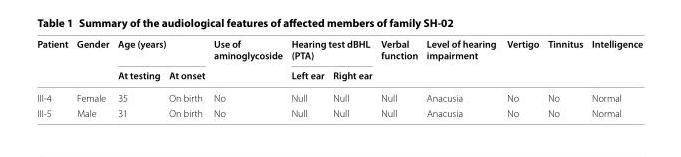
<table><thead><tr><td rowspan="2">Patient</td><td rowspan="2">Gender</td><td colspan="2">Age (years)</td><td rowspan="2">Use of aminoglycoside</td><td colspan="2">Hearing test dBHL (PTA)</td><td rowspan="2">Verbal function</td><td rowspan="2">Level of hearing impairment</td><td rowspan="2">Vertigo</td><td rowspan="2">Tinnitus</td><td rowspan="2">Intelligence</td></tr><tr><td>At testing</td><td>At onset</td><td>Left ear</td><td>Right ear</td></tr></thead><tbody><tr><td>III-4</td><td>Female</td><td>35</td><td>On birth</td><td>No</td><td>Null</td><td>Null</td><td>Null</td><td>Anacusia</td><td>No</td><td>No</td><td>Normal</td></tr><tr><td>III-5</td><td>Male</td><td>31</td><td>On birth</td><td>No</td><td>Null</td><td>Null</td><td>Null</td><td>Anacusia</td><td>No</td><td>No</td><td>Normal</td></tr></tbody></table>